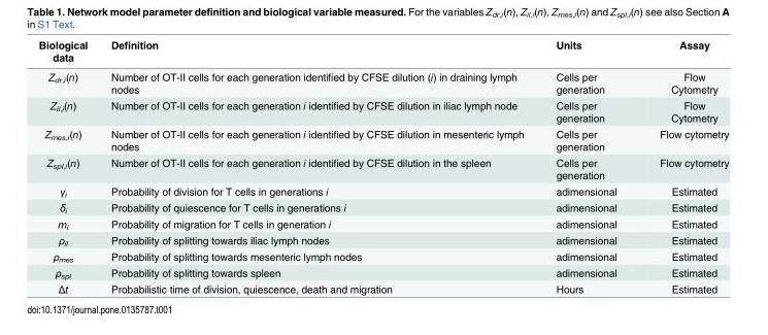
<table><thead><tr><td>Biological data</td><td>Definition</td><td>Units</td><td>Assay</td></tr></thead><tbody><tr><td>Z<sub>dr,i</sub>(n)</td><td>Number of OT-II cells for each generation identified by CFSE dilution (i) in draining lymph nodes</td><td>Cells per generation</td><td>Flow Cytometry</td></tr><tr><td>Z<sub>il,i</sub>(n)</td><td>Number of OT-II cells for each generation i identified by CFSE dilution in iliac lymph node</td><td>Cells per generation</td><td>Flow Cytometry</td></tr><tr><td>Z<sub>mes,i</sub>(n)</td><td>Number of OT-II cells for each generation i identified by CFSE dilution in mesenteric lymph nodes</td><td>Cells per generation</td><td>Flow cytometry</td></tr><tr><td>Z<sub>spl,i</sub>(n)</td><td>Number of OT-II cells for each generation i identified by CFSE dilution in the spleen</td><td>Cells per generation</td><td>Flow cytometry</td></tr><tr><td>γ<sub>i</sub></td><td>Probability of division for T cells in generations i</td><td>adimensional</td><td>Estimated</td></tr><tr><td>δ<sub>i</sub></td><td>Probability of quiescence for T cells in generations i</td><td>adimensional</td><td>Estimated</td></tr><tr><td>m<sub>i</sub></td><td>Probability of migration for T cells in generation i</td><td>adimensional</td><td>Estimated</td></tr><tr><td>ρ<sub>il</sub></td><td>Probability of splitting towards iliac lymph nodes</td><td>adimensional</td><td>Estimated</td></tr><tr><td>ρ<sub>mes</sub></td><td>Probability of splitting towards mesenteric lymph nodes</td><td>adimensional</td><td>Estimated</td></tr><tr><td>ρ<sub>spl</sub></td><td>Probability of splitting towards spleen</td><td>adimensional</td><td>Estimated</td></tr><tr><td>Δt</td><td>Probabilistic time of division, quiescence, death and migration</td><td>Hours</td><td>Estimated</td></tr></tbody></table>